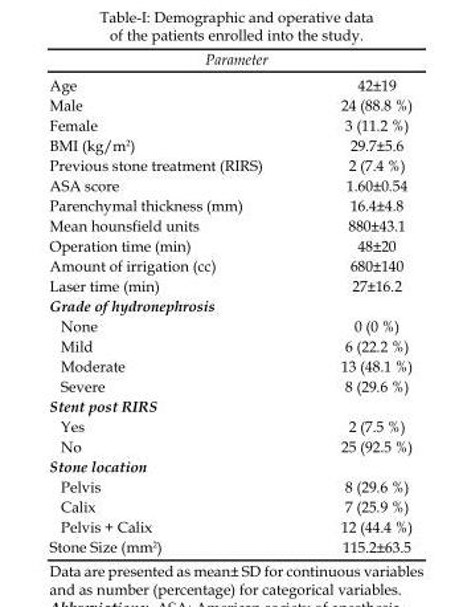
<table><thead><tr><td colspan="2">Parameter</td></tr><tr><td>Age</td><td>42±19</td></tr></thead><tbody><tr><td>Male</td><td>24 (88.8 %)</td></tr><tr><td>Female</td><td>3 (11.2 %)</td></tr><tr><td>BMI (kg/m<sup>2</sup>)</td><td>29.7±5.6</td></tr><tr><td>Previous stone treatment (RIRS)</td><td>2 (7.4 %)</td></tr><tr><td>ASA score</td><td>1.60±0.54</td></tr><tr><td>Parenchymal thickness (mm)</td><td>16.4±4.8</td></tr><tr><td>Mean hounsfield units</td><td>880±43.1</td></tr><tr><td>Operation time (min)</td><td>48±20</td></tr><tr><td>Amount of irrigation (cc)</td><td>680±140</td></tr><tr><td>Laser time (min)</td><td>27±16.2</td></tr><tr><td colspan="2">Grade of hydronephrosis</td></tr><tr><td>None</td><td>0 (0 %)</td></tr><tr><td>Mild</td><td>6 (22.2 %)</td></tr><tr><td>Moderate</td><td>13 (48.1 %)</td></tr><tr><td>Severe</td><td>8 (29.6 %)</td></tr><tr><td colspan="2">Stent post RIRS</td></tr><tr><td>Yes</td><td>2 (7.5 %)</td></tr><tr><td>No</td><td>25 (92.5 %)</td></tr><tr><td colspan="2">Stone location</td></tr><tr><td>Pelvis</td><td>8 (29.6 %)</td></tr><tr><td>Calix</td><td>7 (25.9 %)</td></tr><tr><td>Pelvis + Calix</td><td>12 (44.4 %)</td></tr><tr><td>Stone Size (mm<sup>2</sup>)</td><td>115.2±63.5</td></tr></tbody></table>